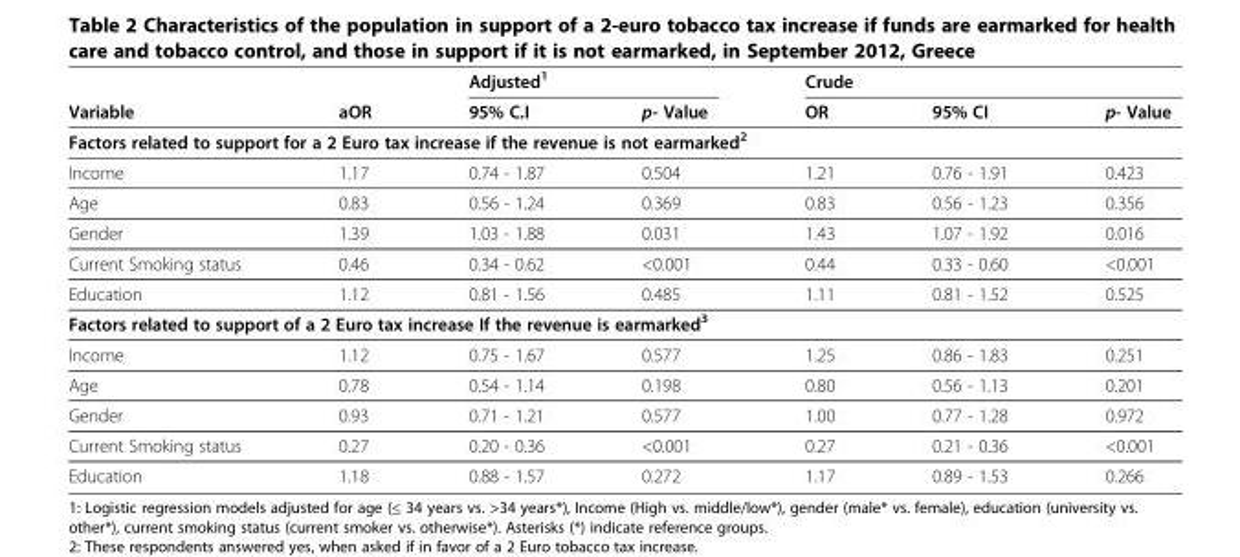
<table><thead><tr><td rowspan="2">Variable</td><td rowspan="2">aOR</td><td colspan="2">Adjusted<sup>1</sup></td><td colspan="3">Crude</td></tr><tr><td>95% C.I</td><td>p- Value</td><td>OR</td><td>95% CI</td><td>p- Value</td></tr></thead><tbody><tr><td colspan="7">Factors related to support for a 2 Euro tax increase if the revenue is not earmarked<sup>2</sup></td></tr><tr><td>Income</td><td>1.17</td><td>0.74 - 1.87</td><td>0.504</td><td>1.21</td><td>0.76 - 1.91</td><td>0.423</td></tr><tr><td>Age</td><td>0.83</td><td>0.56 - 1.24</td><td>0.369</td><td>0.83</td><td>0.56 - 1.23</td><td>0.356</td></tr><tr><td>Gender</td><td>1.39</td><td>1.03 - 1.88</td><td>0.031</td><td>1.43</td><td>1.07 - 1.92</td><td>0.016</td></tr><tr><td>Current Smoking status</td><td>0.46</td><td>0.34 - 0.62</td><td>&lt;0.001</td><td>0.44</td><td>0.33 - 0.60</td><td>&lt;0.001</td></tr><tr><td>Education</td><td>1.12</td><td>0.81 - 1.56</td><td>0.485</td><td>1.11</td><td>0.81 - 1.52</td><td>0.525</td></tr><tr><td colspan="7">Factors related to support of a 2 Euro tax increase If the revenue is earmarked<sup>3</sup></td></tr><tr><td>Income</td><td>1.12</td><td>0.75 - 1.67</td><td>0.577</td><td>1.25</td><td>0.86 - 1.83</td><td>0.251</td></tr><tr><td>Age</td><td>0.78</td><td>0.54 - 1.14</td><td>0.198</td><td>0.80</td><td>0.56 - 1.13</td><td>0.201</td></tr><tr><td>Gender</td><td>0.93</td><td>0.71 - 1.21</td><td>0.577</td><td>1.00</td><td>0.77 - 1.28</td><td>0.972</td></tr><tr><td>Current Smoking status</td><td>0.27</td><td>0.20 - 0.36</td><td>&lt;0.001</td><td>0.27</td><td>0.21 - 0.36</td><td>&lt;0.001</td></tr><tr><td>Education</td><td>1.18</td><td>0.88 - 1.57</td><td>0.272</td><td>1.17</td><td>0.89 - 1.53</td><td>0.266</td></tr></tbody></table>